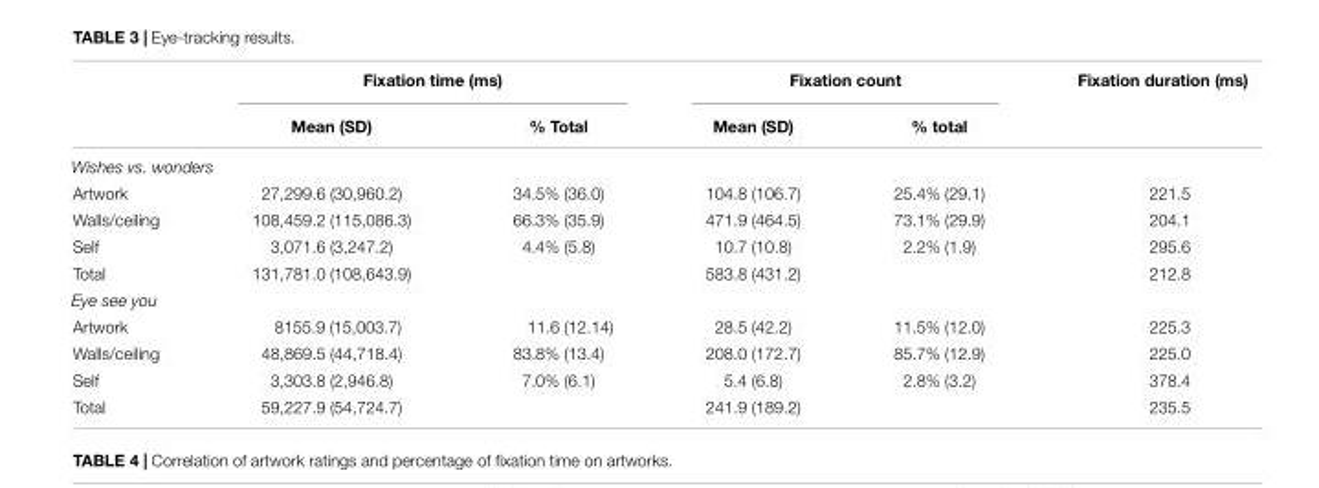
<table><thead><tr><td rowspan="2"></td><td colspan="2">Fixation time (ms)</td><td colspan="2">Fixation count</td><td rowspan="2">Fixation duration (ms)</td></tr><tr><td>Mean (SD)</td><td>% Total</td><td>Mean (SD)</td><td>% total</td></tr></thead><tbody><tr><td colspan="6">Wishes vs. wonders</td></tr><tr><td>Artwork</td><td>27,299.6 (30,960.2)</td><td>34.5% (36.0)</td><td>104.8 (106.7)</td><td>25.4% (29.1)</td><td>221.5</td></tr><tr><td>Walls/ceiling</td><td>108,459.2 (115,086.3)</td><td>66.3% (35.9)</td><td>471.9 (464.5)</td><td>73.1% (29.9)</td><td>204.1</td></tr><tr><td>Self</td><td>3,071.6 (3,247.2)</td><td>4.4% (5.8)</td><td>10.7 (10.8)</td><td>2.2% (1.9)</td><td>295.6</td></tr><tr><td>Total</td><td>131,781.0 (108,643.9)</td><td></td><td>583.8 (431.2)</td><td></td><td>212.8</td></tr><tr><td colspan="6">Eye see you</td></tr><tr><td>Artwork</td><td>8155.9 (15,003.7)</td><td>11.6 (12.14)</td><td>28.5 (42.2)</td><td>11.5% (12.0)</td><td>225.3</td></tr><tr><td>Walls/ceiling</td><td>48,869.5 (44,718.4)</td><td>83.8% (13.4)</td><td>208.0 (172.7)</td><td>85.7% (12.9)</td><td>225.0</td></tr><tr><td>Self</td><td>3,303.8 (2,946.8)</td><td>7.0% (6.1)</td><td>5.4 (6.8)</td><td>2.8% (3.2)</td><td>378.4</td></tr><tr><td>Total</td><td>59,227.9 (54,724.7)</td><td></td><td>241.9 (189.2)</td><td></td><td>235.5</td></tr></tbody></table>